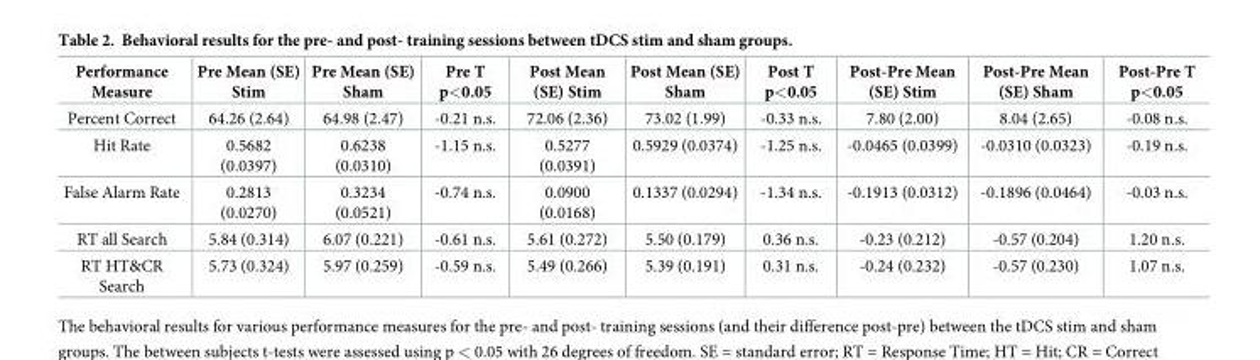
<table><thead><tr><td>Performance Measure</td><td>Pre Mean (SE) Stim</td><td>Pre Mean (SE) Sham</td><td>Pre T p&lt;0.05</td><td>Post Mean (SE) Stim</td><td>Post Mean (SE) Sham</td><td>Post T p&lt;0.05</td><td>Post-Pre Mean (SE) Stim</td><td>Post-Pre Mean (SE) Sham</td><td>Post-Pre T p&lt;0.05</td></tr></thead><tbody><tr><td>Percent Correct</td><td>64.26 (2.64)</td><td>64.98 (2.47)</td><td>-0.21 n.s.</td><td>72.06 (2.36)</td><td>73.02 (1.99)</td><td>-0.33 n.s.</td><td>7.80 (2.00)</td><td>8.04 (2.65)</td><td>-0.08 n.s.</td></tr><tr><td>Hit Rate</td><td>0.5682 (0.0397)</td><td>0.6238 (0.0310)</td><td>-1.15 n.s.</td><td>0.5277 (0.0391)</td><td>0.5929 (0.0374)</td><td>-1.25 n.s.</td><td>-0.0465 (0.0399)</td><td>-0.0310 (0.0323)</td><td>-0.19 n.s.</td></tr><tr><td>False Alarm Rate</td><td>0.2813 (0.0270)</td><td>0.3234 (0.0521)</td><td>-0.74 n.s.</td><td>0.0900 (0.0168)</td><td>0.1337 (0.0294)</td><td>-1.34 n.s.</td><td>-0.1913 (0.0312)</td><td>-0.1896 (0.0464)</td><td>-0.03 n.s.</td></tr><tr><td>RT all Search</td><td>5.84 (0.314)</td><td>6.07 (0.221)</td><td>-0.61 n.s.</td><td>5.61 (0.272)</td><td>5.50 (0.179)</td><td>0.36 n.s.</td><td>-0.23 (0.212)</td><td>-0.57 (0.204)</td><td>1.20 n.s.</td></tr><tr><td>RT HT&amp;CR Search</td><td>5.73 (0.324)</td><td>5.97 (0.259)</td><td>-0.59 n.s.</td><td>5.49 (0.266)</td><td>5.39 (0.191)</td><td>0.31 n.s.</td><td>-0.24 (0.232)</td><td>-0.57 (0.230)</td><td>1.07 n.s.</td></tr></tbody></table>